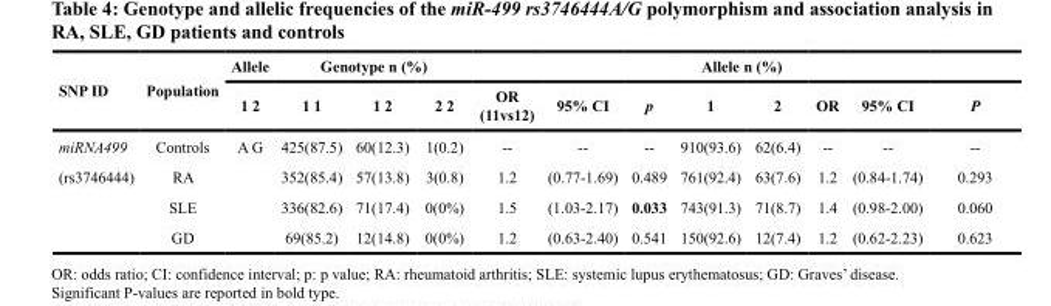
<table><thead><tr><td rowspan="2">SNP ID</td><td rowspan="2">Population</td><td rowspan="2">Allele 1 2</td><td colspan="3">Genotype n (%)</td><td rowspan="2">OR (11vs12)</td><td rowspan="2">95% CI</td><td rowspan="2">p</td><td colspan="2">Allele n (%)</td><td rowspan="2">OR</td><td rowspan="2">95% CI</td><td rowspan="2">P</td></tr><tr><td>1 1</td><td>1 2</td><td>2 2</td><td>1</td><td>2</td></tr></thead><tbody><tr><td>miRNA499</td><td>Controls</td><td>A G</td><td>425(87.5)</td><td>60(12.3)</td><td>1(0.2)</td><td>--</td><td>--</td><td>--</td><td>910(93.6)</td><td>62(6.4)</td><td>--</td><td>--</td><td>--</td></tr><tr><td rowspan="3">(rs3746444)</td><td>RA</td><td></td><td>352(85.4)</td><td>57(13.8)</td><td>3(0.8)</td><td>1.2</td><td>(0.77-1.69)</td><td>0.489</td><td>761(92.4)</td><td>63(7.6)</td><td>1.2</td><td>(0.84-1.74)</td><td>0.293</td></tr><tr><td>SLE</td><td></td><td>336(82.6)</td><td>71(17.4)</td><td>0(0%)</td><td>1.5</td><td>(1.03-2.17)</td><td>0.033</td><td>743(91.3)</td><td>71(8.7)</td><td>1.4</td><td>(0.98-2.00)</td><td>0.060</td></tr><tr><td>GD</td><td></td><td>69(85.2)</td><td>12(14.8)</td><td>0(0%)</td><td>1.2</td><td>(0.63-2.40)</td><td>0.541</td><td>150(92.6)</td><td>12(7.4)</td><td>1.2</td><td>(0.62-2.23)</td><td>0.623</td></tr></tbody></table>